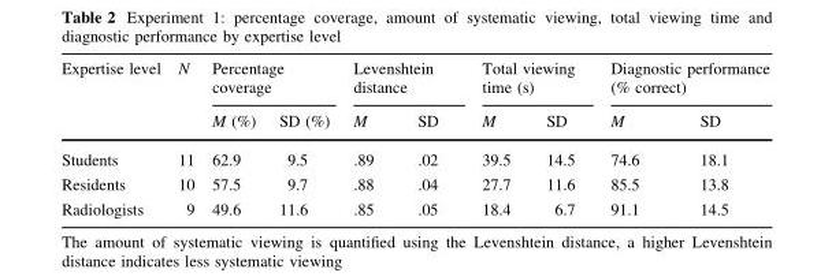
<table><thead><tr><td rowspan="2">Expertise level</td><td rowspan="2">N</td><td colspan="2">Percentage coverage</td><td colspan="2">Levenshtein distance</td><td colspan="2">Total viewing time (s)</td><td colspan="2">Diagnostic performance (% correct)</td></tr><tr><td>M (%)</td><td>SD (%)</td><td>M</td><td>SD</td><td>M</td><td>SD</td><td>M</td><td>SD</td></tr></thead><tbody><tr><td>Students</td><td>11</td><td>62.9</td><td>9.5</td><td>.89</td><td>.02</td><td>39.5</td><td>14.5</td><td>74.6</td><td>18.1</td></tr><tr><td>Residents</td><td>10</td><td>57.5</td><td>9.7</td><td>.88</td><td>.04</td><td>27.7</td><td>11.6</td><td>85.5</td><td>13.8</td></tr><tr><td>Radiologists</td><td>9</td><td>49.6</td><td>11.6</td><td>.85</td><td>.05</td><td>18.4</td><td>6.7</td><td>91.1</td><td>14.5</td></tr></tbody></table>